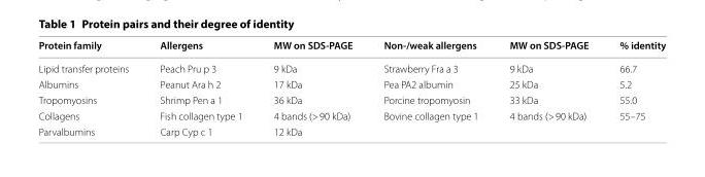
<table><thead><tr><td>Protein family</td><td>Allergens</td><td>MW on SDS-PAGE</td><td>Non-/weak allergens</td><td>MW on SDS-PAGE</td><td>% identity</td></tr></thead><tbody><tr><td>Lipid transfer proteins</td><td>Peach Pru p 3</td><td>9 kDa</td><td>Strawberry Fra a 3</td><td>9 kDa</td><td>66.7</td></tr><tr><td>Albumins</td><td>Peanut Ara h 2</td><td>17 kDa</td><td>Pea PA2 albumin</td><td>25 kDa</td><td>5.2</td></tr><tr><td>Tropomyosins</td><td>Shrimp Pen a 1</td><td>36 kDa</td><td>Porcine tropomyosin</td><td>33 kDa</td><td>55.0</td></tr><tr><td>Collagens</td><td>Fish collagen type 1</td><td>4 bands (&gt; 90 kDa)</td><td>Bovine collagen type 1</td><td>4 bands (&gt; 90 kDa)</td><td>55–75</td></tr><tr><td>Parvalbumins</td><td>Carp Cyp c 1</td><td>12 kDa</td><td></td><td></td><td></td></tr></tbody></table>